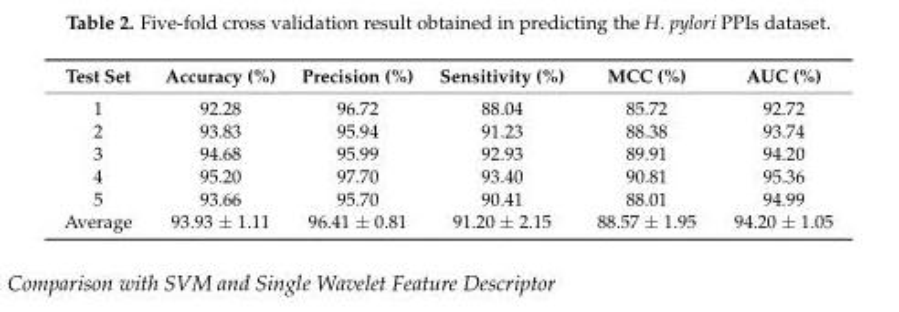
<table><thead><tr><td>Test Set</td><td>Accuracy (%)</td><td>Precision (%)</td><td>Sensitivity (%)</td><td>MCC (%)</td><td>AUC (%)</td></tr></thead><tbody><tr><td>1</td><td>92.28</td><td>96.72</td><td>88.04</td><td>85.72</td><td>92.72</td></tr><tr><td>2</td><td>93.83</td><td>95.94</td><td>91.23</td><td>88.38</td><td>93.74</td></tr><tr><td>3</td><td>94.68</td><td>95.99</td><td>92.93</td><td>89.91</td><td>94.20</td></tr><tr><td>4</td><td>95.20</td><td>97.70</td><td>93.40</td><td>90.81</td><td>95.36</td></tr><tr><td>5</td><td>93.66</td><td>95.70</td><td>90.41</td><td>88.01</td><td>94.99</td></tr><tr><td>Average</td><td>93.93 ± 1.11</td><td>96.41 ± 0.81</td><td>91.20 ± 2.15</td><td>88.57 ± 1.95</td><td>94.20 ± 1.05</td></tr></tbody></table>